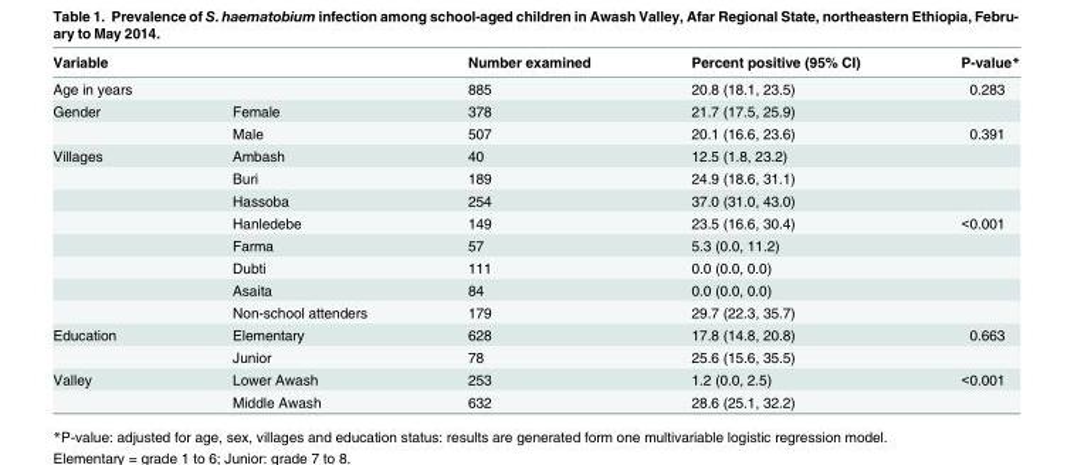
<table><thead><tr><td>Variable</td><td></td><td>Number examined</td><td>Percent positive (95% CI)</td><td>P-value*</td></tr></thead><tbody><tr><td>Age in years</td><td></td><td>885</td><td>20.8 (18.1, 23.5)</td><td>0.283</td></tr><tr><td rowspan="2">Gender</td><td>Female</td><td>378</td><td>21.7 (17.5, 25.9)</td><td></td></tr><tr><td>Male</td><td>507</td><td>20.1 (16.6, 23.6)</td><td>0.391</td></tr><tr><td rowspan="8">Villages</td><td>Ambash</td><td>40</td><td>12.5 (1.8, 23.2)</td><td></td></tr><tr><td>Buri</td><td>189</td><td>24.9 (18.6, 31.1)</td><td></td></tr><tr><td>Hassoba</td><td>254</td><td>37.0 (31.0, 43.0)</td><td></td></tr><tr><td>Hanledebe</td><td>149</td><td>23.5 (16.6, 30.4)</td><td>&lt;0.001</td></tr><tr><td>Farma</td><td>57</td><td>5.3 (0.0, 11.2)</td><td></td></tr><tr><td>Dubti</td><td>111</td><td>0.0 (0.0, 0.0)</td><td></td></tr><tr><td>Asaita</td><td>84</td><td>0.0 (0.0, 0.0)</td><td></td></tr><tr><td>Non-school attenders</td><td>179</td><td>29.7 (22.3, 35.7)</td><td></td></tr><tr><td rowspan="2">Education</td><td>Elementary</td><td>628</td><td>17.8 (14.8, 20.8)</td><td>0.663</td></tr><tr><td>Junior</td><td>78</td><td>25.6 (15.6, 35.5)</td><td></td></tr><tr><td rowspan="2">Valley</td><td>Lower Awash</td><td>253</td><td>1.2 (0.0, 2.5)</td><td>&lt;0.001</td></tr><tr><td>Middle Awash</td><td>632</td><td>28.6 (25.1, 32.2)</td><td></td></tr></tbody></table>